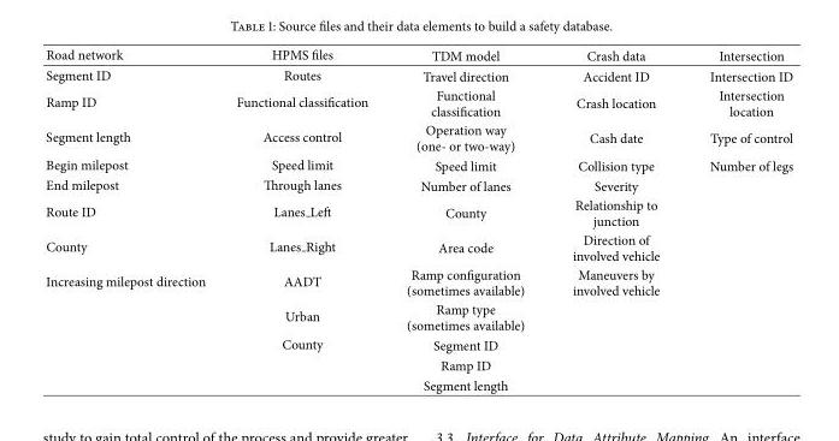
<table><thead><tr><td>Road network</td><td>HPMS files</td><td>TDM model</td><td>Crash data</td><td>Intersection</td></tr></thead><tbody><tr><td>Segment ID</td><td>Routes</td><td>Travel direction</td><td>Accident ID</td><td>Intersection ID</td></tr><tr><td>Ramp ID</td><td>Functional classification</td><td>Functional classification</td><td>Crash location</td><td>Intersection location</td></tr><tr><td>Segment length</td><td>Access control</td><td>Operation way (one- or two-way)</td><td>Cash date</td><td>Type of control</td></tr><tr><td>Begin milepost</td><td>Speed limit</td><td>Speed limit</td><td>Collision type</td><td>Number of legs</td></tr><tr><td>End milepost</td><td>Through lanes</td><td>Number of lanes</td><td>Severity</td><td></td></tr><tr><td>Route ID</td><td>Lanes Left</td><td>County</td><td>Relationship to junction</td><td></td></tr><tr><td>County</td><td>Lanes Right</td><td>Area code</td><td>Direction of involved vehicle</td><td></td></tr><tr><td rowspan="5">Increasing milepost direction</td><td>AADT</td><td>Ramp configuration (sometimes available)</td><td>Maneuvers by involved vehicle</td><td></td></tr><tr><td>Urban</td><td>Ramp type (sometimes available)</td><td></td><td></td></tr><tr><td>County</td><td>Segment ID</td><td></td><td></td></tr><tr><td></td><td>Ramp ID</td><td></td><td></td></tr><tr><td></td><td>Segment length</td><td></td><td></td></tr></tbody></table>